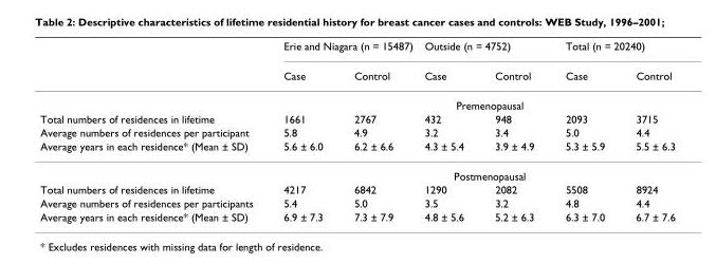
<table><thead><tr><td rowspan="2"></td><td colspan="2">Erie and Niagara (n = 15487)</td><td colspan="2">Outside (n = 4752)</td><td colspan="2">Total (n = 20240)</td></tr><tr><td>Case</td><td>Control</td><td>Case</td><td>Control</td><td>Case</td><td>Control</td></tr></thead><tbody><tr><td></td><td colspan="6">Premenopausal</td></tr><tr><td>Total numbers of residences in lifetime</td><td>1661</td><td>2767</td><td>432</td><td>948</td><td>2093</td><td>3715</td></tr><tr><td>Average numbers of residences per participant</td><td>5.8</td><td>4.9</td><td>3.2</td><td>3.4</td><td>5.0</td><td>4.4</td></tr><tr><td rowspan="2">Average years in each residence* (Mean ± SD)</td><td>5.6 ± 6.0</td><td>6.2 ± 6.6</td><td>4.3 ± 5.4</td><td>3.9 ± 4.9</td><td>5.3 ± 5.9</td><td>5.5 ± 6.3</td></tr><tr><td colspan="6">Postmenopausal</td></tr><tr><td>Total numbers of residences in lifetime</td><td>4217</td><td>6842</td><td>1290</td><td>2082</td><td>5508</td><td>8924</td></tr><tr><td>Average numbers of residences per participants</td><td>5.4</td><td>5.0</td><td>3.5</td><td>3.2</td><td>4.8</td><td>4.4</td></tr><tr><td>Average years in each residence* (Mean ± SD)</td><td>6.9 ± 7.3</td><td>7.3 ± 7.9</td><td>4.8 ± 5.6</td><td>5.2 ± 6.3</td><td>6.3 ± 7.0</td><td>6.7 ± 7.6</td></tr></tbody></table>